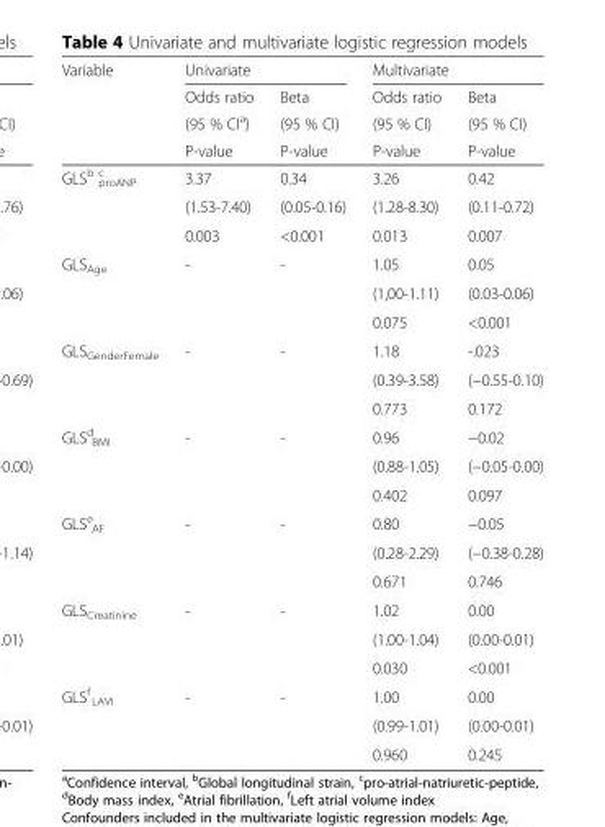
<table><thead><tr><td rowspan="4">Variable</td><td colspan="2">Univariate</td><td colspan="2">Multivariate</td></tr><tr><td rowspan="3">Odds ratio (95 % CI<sup>a</sup>) P-value</td><td rowspan="3">Beta (95 % CI) P-value</td><td rowspan="3">Odds ratio (95 % CI) P-value</td><td rowspan="3">Beta (95 % CI) P-value</td></tr><tr></tr><tr></tr></thead><tbody><tr><td rowspan="3">GLS<sup>b</sup> <sub>proANP</sub> <sup>c</sup></td><td>3.37</td><td>0.34</td><td>3.26</td><td>0.42</td></tr><tr><td>(1.53-7.40)</td><td>(0.05-0.16)</td><td>(1.28-8.30)</td><td>(0.11-0.72)</td></tr><tr><td>0.003</td><td>&lt;0.001</td><td>0.013</td><td>0.007</td></tr><tr><td rowspan="3">GLS<sub>Age</sub></td><td>-</td><td>-</td><td>1.05</td><td>0.05</td></tr><tr><td></td><td></td><td>(1,00-1.11)</td><td>(0.03-0.06)</td></tr><tr><td></td><td></td><td>0.075</td><td>&lt;0.001</td></tr><tr><td rowspan="3">GLS<sub>GenderFemale</sub></td><td>-</td><td>-</td><td>1.18</td><td>-.023</td></tr><tr><td></td><td></td><td>(0.39-3.58)</td><td>(−0.55-0.10)</td></tr><tr><td></td><td></td><td>0.773</td><td>0.172</td></tr><tr><td rowspan="3">GLS <sub>BMI</sub> <sup>d</sup></td><td>-</td><td>-</td><td>0.96</td><td>−0.02</td></tr><tr><td></td><td></td><td>(0.88-1.05)</td><td>(−0.05-0.00)</td></tr><tr><td></td><td></td><td>0.402</td><td>0.097</td></tr><tr><td rowspan="3">GLS <sub>AF</sub> <sup>e</sup></td><td>-</td><td>-</td><td>0.80</td><td>−0.05</td></tr><tr><td></td><td></td><td>(0.28-2.29)</td><td>(−0.38-0.28)</td></tr><tr><td></td><td></td><td>0.671</td><td>0.746</td></tr><tr><td rowspan="3">GLS<sub>Creatinine</sub></td><td>-</td><td>-</td><td>1.02</td><td>0.00</td></tr><tr><td></td><td></td><td>(1.00-1.04)</td><td>(0.00-0.01)</td></tr><tr><td></td><td></td><td>0.030</td><td>&lt;0.001</td></tr><tr><td rowspan="3">GLS <sub>LAVI</sub> <sup>f</sup></td><td>-</td><td>-</td><td>1.00</td><td>0.00</td></tr><tr><td></td><td></td><td>(0.99-1.01)</td><td>(0.00-0.01)</td></tr><tr><td></td><td></td><td>0.960</td><td>0.245</td></tr></tbody></table>